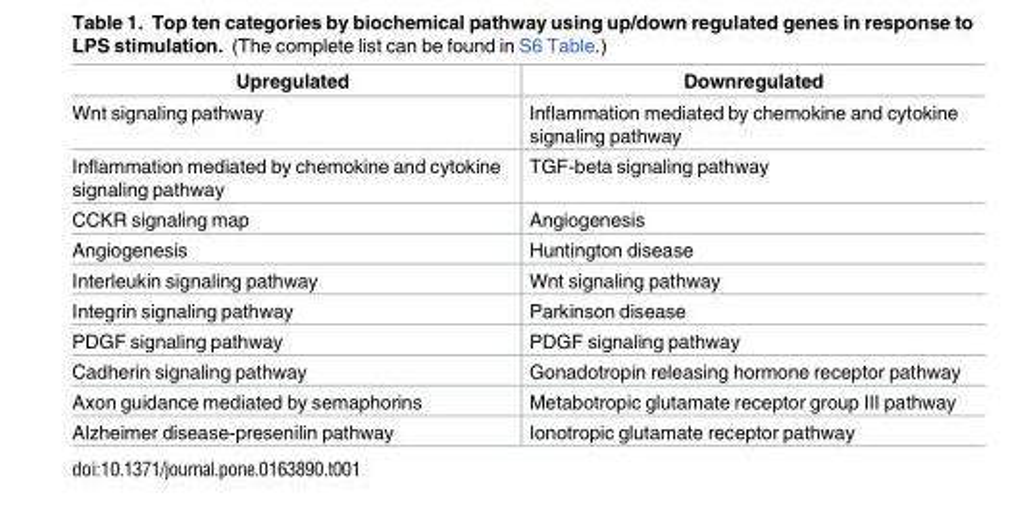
<table><thead><tr><td>Upregulated</td><td>Downregulated</td></tr></thead><tbody><tr><td>Wnt signaling pathway</td><td>Inflammation mediated by chemokine and cytokine signaling pathway</td></tr><tr><td>Inflammation mediated by chemokine and cytokine signaling pathway</td><td>TGF-beta signaling pathway</td></tr><tr><td>CCKR signaling map</td><td>Angiogenesis</td></tr><tr><td>Angiogenesis</td><td>Huntington disease</td></tr><tr><td>Interleukin signaling pathway</td><td>Wnt signaling pathway</td></tr><tr><td>Integrin signaling pathway</td><td>Parkinson disease</td></tr><tr><td>PDGF signaling pathway</td><td>PDGF signaling pathway</td></tr><tr><td>Cadherin signaling pathway</td><td>Gonadotropin releasing hormone receptor pathway</td></tr><tr><td>Axon guidance mediated by semaphorins</td><td>Metabotropic glutamate receptor group III pathway</td></tr><tr><td>Alzheimer disease-presenilin pathway</td><td>Ionotropic glutamate receptor pathway</td></tr></tbody></table>